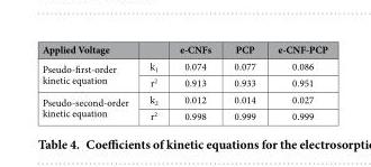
<table><thead><tr><td>Applied Voltage</td><td></td><td>e-CNFs</td><td>PCP</td><td>e-CNF-PCP</td></tr></thead><tbody><tr><td rowspan="2">Pseudo-first-order kinetic equation</td><td>k<sub>1</sub></td><td>0.074</td><td>0.077</td><td>0.086</td></tr><tr><td>r<sup>2</sup></td><td>0.913</td><td>0.933</td><td>0.951</td></tr><tr><td rowspan="2">Pseudo-second-order kinetic equation</td><td>k<sub>2</sub></td><td>0.012</td><td>0.014</td><td>0.027</td></tr><tr><td>r<sup>2</sup></td><td>0.998</td><td>0.999</td><td>0.999</td></tr></tbody></table>